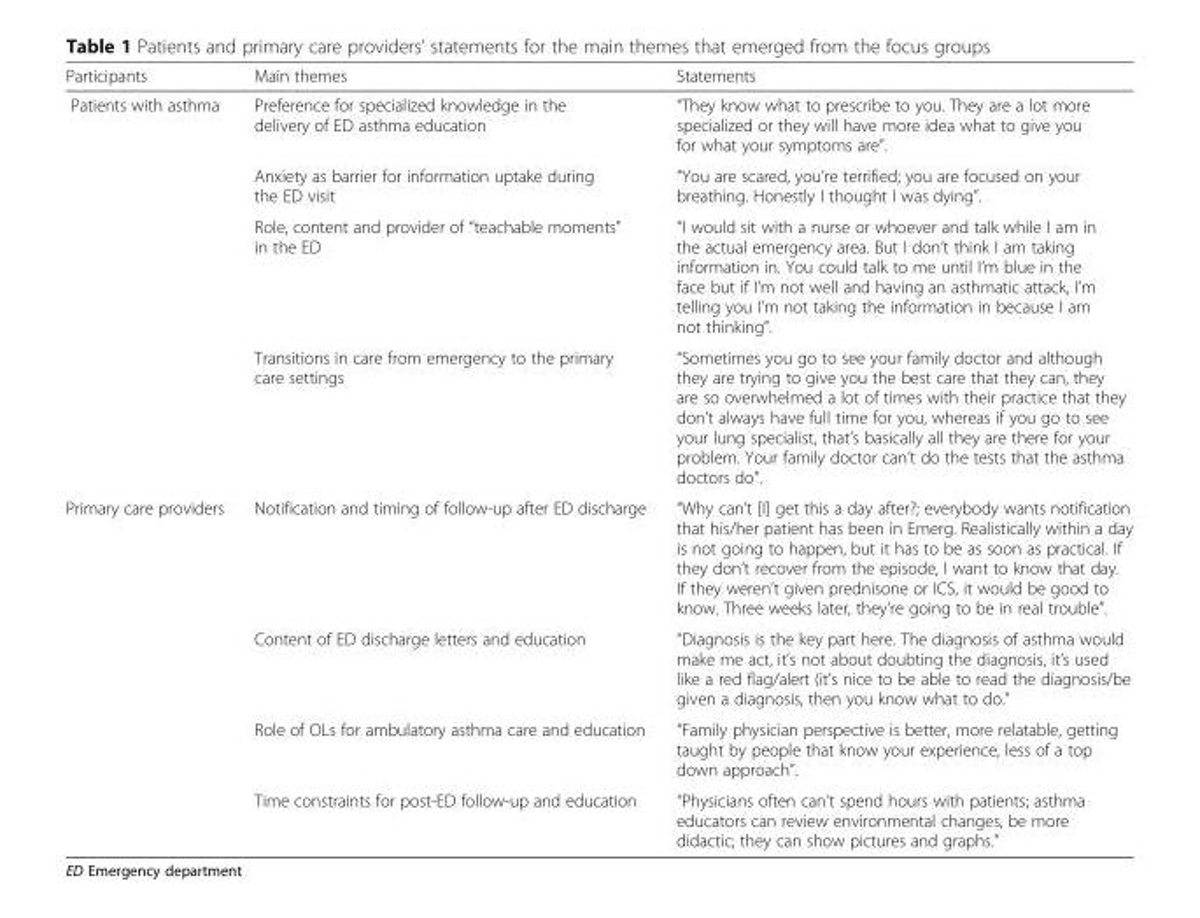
<table><thead><tr><td>Participants</td><td>Main themes</td><td>Statements</td></tr></thead><tbody><tr><td rowspan="4">Patients with asthma</td><td>Preference for specialized knowledge in the delivery of ED asthma education</td><td>“They know what to prescribe to you. They are a lot more specialized or they will have more idea what to give you for what your symptoms are”.</td></tr><tr><td>Anxiety as barrier for information uptake during the ED visit</td><td>“You are scared, you’re terrified; you are focused on your breathing. Honestly I thought I was dying”.</td></tr><tr><td>Role, content and provider of “teachable moments” in the ED</td><td>“I would sit with a nurse or whoever and talk while I am in the actual emergency area. But I don’t think I am taking information in. You could talk to me until I’m blue in the face but if I’m not well and having an asthmatic attack, I’m telling you I’m not taking the information in because I am not thinking”.</td></tr><tr><td>Transitions in care from emergency to the primary care settings</td><td>“Sometimes you go to see your family doctor and although they are trying to give you the best care that they can, they are so overwhelmed a lot of times with their practice that they don’t always have full time for you, whereas if you go to see your lung specialist, that’s basically all they are there for your problem. Your family doctor can’t do the tests that the asthma doctors do”.</td></tr><tr><td rowspan="4">Primary care providers</td><td>Notification and timing of follow-up after ED discharge</td><td>“Why can’t [I] get this a day after?; everybody wants notification that his/her patient has been in Emerg. Realistically within a day is not going to happen, but it has to be as soon as practical. If they don’t recover from the episode, I want to know that day. If they weren’t given prednisone or ICS, it would be good to know. Three weeks later, they’re going to be in real trouble”.</td></tr><tr><td>Content of ED discharge letters and education</td><td>“Diagnosis is the key part here. The diagnosis of asthma would make me act, it’s not about doubting the diagnosis, it’s used like a red flag/alert (it’s nice to be able to read the diagnosis/be given a diagnosis, then you know what to do.”</td></tr><tr><td>Role of OLs for ambulatory asthma care and education</td><td>“Family physician perspective is better, more relatable, getting taught by people that know your experience, less of a top down approach”.</td></tr><tr><td>Time constraints for post-ED follow-up and education</td><td>“Physicians often can’t spend hours with patients; asthma educators can review environmental changes, be more didactic; they can show pictures and graphs.”</td></tr></tbody></table>